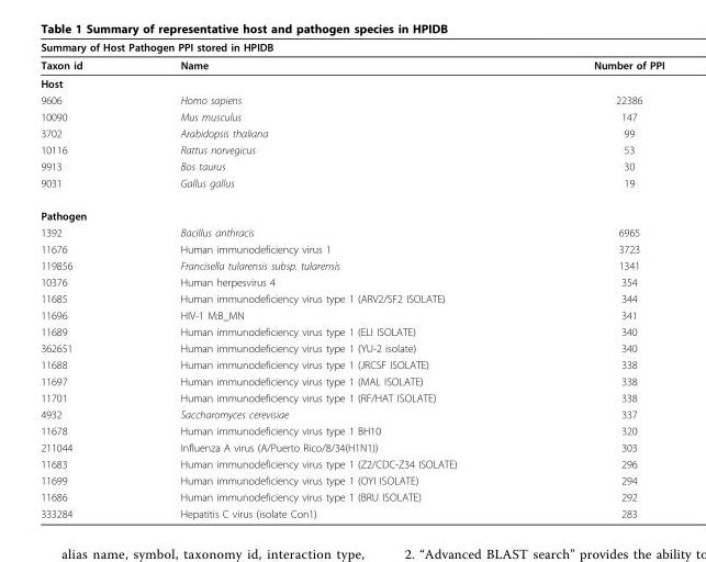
<table><thead><tr><td colspan="3">Summary of Host Pathogen PPI stored in HPIDB</td></tr><tr><td>Taxon id</td><td>Name</td><td>Number of PPI</td></tr></thead><tbody><tr><td colspan="3">Host</td></tr><tr><td>9606</td><td>Homo sapiens</td><td>22386</td></tr><tr><td>10090</td><td>Mus musculus</td><td>147</td></tr><tr><td>3702</td><td>Arabidopsis thaliana</td><td>99</td></tr><tr><td>10116</td><td>Rattus norvegicus</td><td>53</td></tr><tr><td>9913</td><td>Bos taurus</td><td>30</td></tr><tr><td>9031</td><td>Gallus gallus</td><td>19</td></tr><tr><td colspan="3">Pathogen</td></tr><tr><td>1392</td><td>Bacillus anthracis</td><td>6965</td></tr><tr><td>11676</td><td>Human immunodeficiency virus 1</td><td>3723</td></tr><tr><td>119856</td><td>Francisella tularensis subsp. tularensis</td><td>1341</td></tr><tr><td>10376</td><td>Human herpesvirus 4</td><td>354</td></tr><tr><td>11685</td><td>Human immunodeficiency virus type 1 (ARV2/SF2 ISOLATE)</td><td>344</td></tr><tr><td>11696</td><td>HIV-1 M:B_MN</td><td>341</td></tr><tr><td>11689</td><td>Human immunodeficiency virus type 1 (ELI ISOLATE)</td><td>340</td></tr><tr><td>362651</td><td>Human immunodeficiency virus type 1 (YU-2 isolate)</td><td>340</td></tr><tr><td>11688</td><td>Human immunodeficiency virus type 1 (JRCSF ISOLATE)</td><td>338</td></tr><tr><td>11697</td><td>Human immunodeficiency virus type 1 (MAL ISOLATE)</td><td>338</td></tr><tr><td>11701</td><td>Human immunodeficiency virus type 1 (RF/HAT ISOLATE)</td><td>338</td></tr><tr><td>4932</td><td>Saccharomyces cerevisiae</td><td>337</td></tr><tr><td>11678</td><td>Human immunodeficiency virus type 1 BH10</td><td>320</td></tr><tr><td>211044</td><td>Influenza A virus (A/Puerto Rico/8/34(H1N1))</td><td>303</td></tr><tr><td>11683</td><td>Human immunodeficiency virus type 1 (Z2/CDC-Z34 ISOLATE)</td><td>296</td></tr><tr><td>11699</td><td>Human immunodeficiency virus type 1 (OYI ISOLATE)</td><td>294</td></tr><tr><td>11686</td><td>Human immunodeficiency virus type 1 (BRU ISOLATE)</td><td>292</td></tr><tr><td>333284</td><td>Hepatitis C virus (isolate Con1)</td><td>283</td></tr></tbody></table>